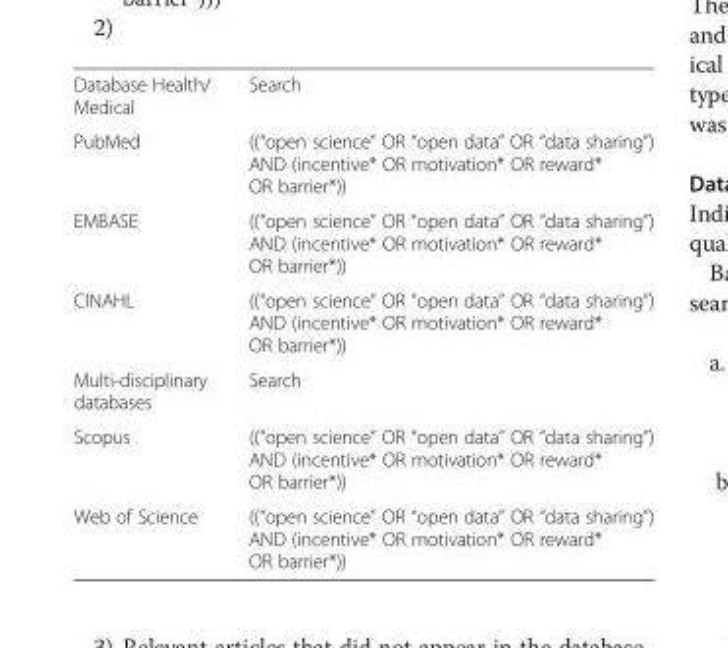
<table><tbody><tr><td>Database Health/ Medical</td><td>Search</td></tr><tr><td>PubMed</td><td>((“open science” OR “open data” OR “data sharing”) AND (incentive* OR motivation* OR reward* OR barrier*))</td></tr><tr><td>EMBASE</td><td>((“open science” OR “open data” OR “data sharing”) AND (incentive* OR motivation* OR reward* OR barrier*))</td></tr><tr><td>CINAHL</td><td>((“open science” OR “open data” OR “data sharing”) AND (incentive* OR motivation* OR reward* OR barrier*))</td></tr><tr><td>Multi-disciplinary databases</td><td>Search</td></tr><tr><td>Scopus</td><td>((“open science” OR “open data” OR “data sharing”) AND (incentive* OR motivation* OR reward* OR barrier*))</td></tr><tr><td>Web of Science</td><td>((“open science” OR “open data” OR “data sharing”) AND (incentive* OR motivation* OR reward* OR barrier*))</td></tr></tbody></table>